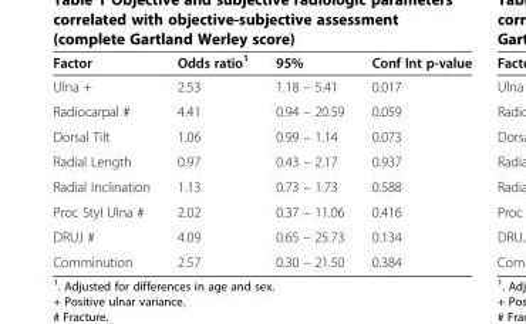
<table><thead><tr><td>Factor</td><td>Odds ratio<sup>1</sup></td><td>95%</td><td>Conf Int p-value</td></tr></thead><tbody><tr><td>Ulna +</td><td>2.53</td><td>1.18 – 5.41</td><td>0.017</td></tr><tr><td>Radiocarpal #</td><td>4.41</td><td>0.94 – 20.59</td><td>0.059</td></tr><tr><td>Dorsal Tilt</td><td>1.06</td><td>0.99 – 1.14</td><td>0.073</td></tr><tr><td>Radial Length</td><td>0.97</td><td>0.43 – 2.17</td><td>0.937</td></tr><tr><td>Radial Inclination</td><td>1.13</td><td>0.73 – 1.73</td><td>0.588</td></tr><tr><td>Proc Styl Ulna #</td><td>2.02</td><td>0.37 – 11.06</td><td>0.416</td></tr><tr><td>DRUJ #</td><td>4.09</td><td>0.65 – 25.73</td><td>0.134</td></tr><tr><td>Comminution</td><td>2.57</td><td>0.30 – 21.50</td><td>0.384</td></tr></tbody></table>